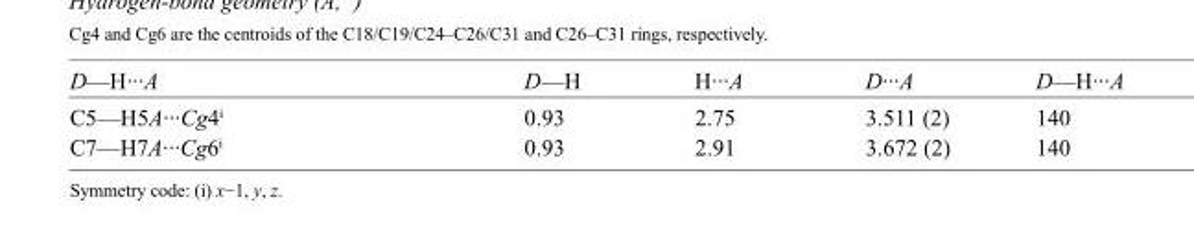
<table><tbody><tr><td>D—H···A</td><td>D—H</td><td>H···A</td><td>D···A</td><td>D—H···A</td></tr><tr><td>C5—H5A···Cg4<sup>i</sup></td><td>0.93</td><td>2.75</td><td>3.511 (2)</td><td>140</td></tr><tr><td>C7—H7A···Cg6<sup>i</sup></td><td>0.93</td><td>2.91</td><td>3.672 (2)</td><td>140</td></tr></tbody></table>